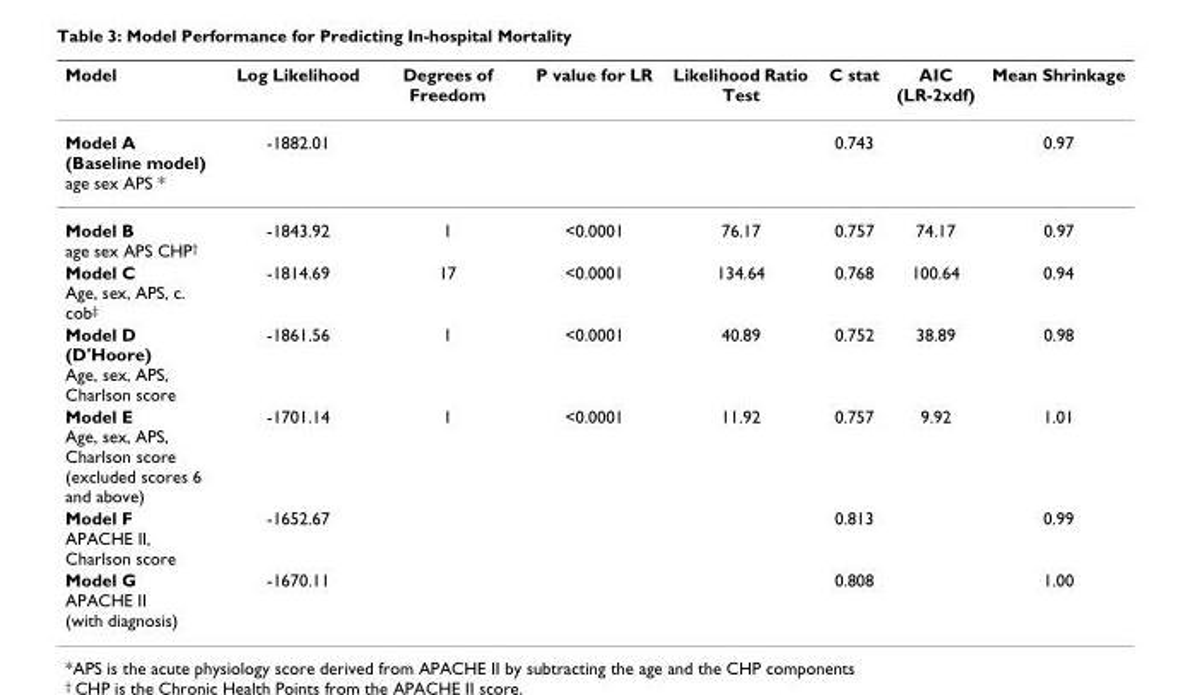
<table><thead><tr><td>Model</td><td>Log Likelihood</td><td>Degrees of Freedom</td><td>P value for LR</td><td>Likelihood Ratio Test</td><td>C stat</td><td>AIC (LR-2xdf)</td><td>Mean Shrinkage</td></tr></thead><tbody><tr><td>Model A (Baseline model) age sex APS *</td><td>-1882.01</td><td></td><td></td><td></td><td>0.743</td><td></td><td>0.97</td></tr><tr><td>Model B age sex APS CHP<sup>†</sup></td><td>-1843.92</td><td>1</td><td>&lt;0.0001</td><td>76.17</td><td>0.757</td><td>74.17</td><td>0.97</td></tr><tr><td>Model C Age, sex, APS, c. cob<sup>‡</sup></td><td>-1814.69</td><td>17</td><td>&lt;0.0001</td><td>134.64</td><td>0.768</td><td>100.64</td><td>0.94</td></tr><tr><td>Model D (D&#x27;Hoore) Age, sex, APS, Charlson score</td><td>-1861.56</td><td>1</td><td>&lt;0.0001</td><td>40.89</td><td>0.752</td><td>38.89</td><td>0.98</td></tr><tr><td>Model E Age, sex, APS, Charlson score (excluded scores 6 and above)</td><td>-1701.14</td><td>1</td><td>&lt;0.0001</td><td>11.92</td><td>0.757</td><td>9.92</td><td>1.01</td></tr><tr><td>Model F APACHE II, Charlson score</td><td>-1652.67</td><td></td><td></td><td></td><td>0.813</td><td></td><td>0.99</td></tr><tr><td>Model G APACHE II (with diagnosis)</td><td>-1670.11</td><td></td><td></td><td></td><td>0.808</td><td></td><td>1.00</td></tr></tbody></table>